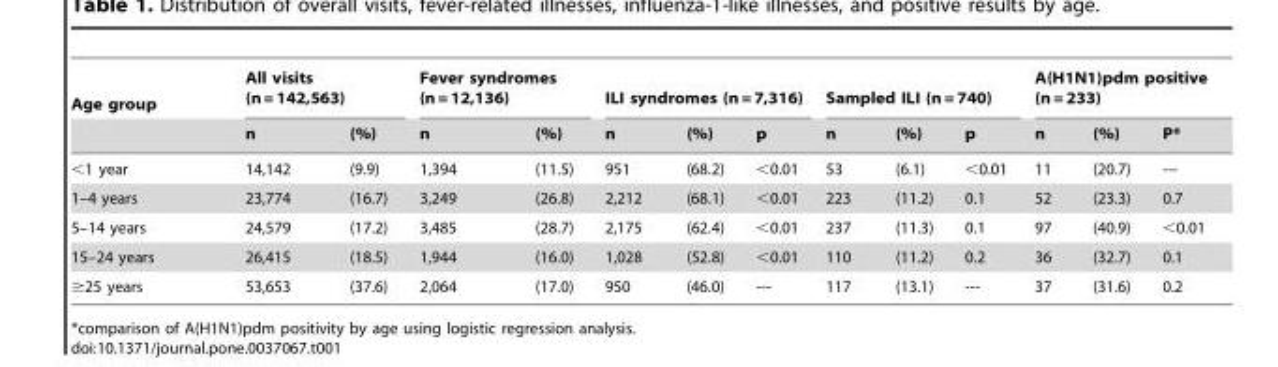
<table><thead><tr><td rowspan="2">Age group</td><td colspan="2">All visits (n = 142,563)</td><td colspan="2">Fever syndromes (n = 12,136)</td><td colspan="3">ILI syndromes (n = 7,316)</td><td colspan="3">Sampled ILI (n = 740)</td><td colspan="3">A(H1N1)pdm positive (n = 233)</td></tr><tr><td>n</td><td>(%)</td><td>n</td><td>(%)</td><td>n</td><td>(%)</td><td>p</td><td>n</td><td>(%)</td><td>p</td><td>n</td><td>(%)</td><td>P*</td></tr></thead><tbody><tr><td>&lt;1 year</td><td>14,142</td><td>(9.9)</td><td>1,394</td><td>(11.5)</td><td>951</td><td>(68.2)</td><td>&lt;0.01</td><td>53</td><td>(6.1)</td><td>&lt;0.01</td><td>11</td><td>(20.7)</td><td>---</td></tr><tr><td>1–4 years</td><td>23,774</td><td>(16.7)</td><td>3,249</td><td>(26.8)</td><td>2,212</td><td>(68.1)</td><td>&lt;0.01</td><td>223</td><td>(11.2)</td><td>0.1</td><td>52</td><td>(23.3)</td><td>0.7</td></tr><tr><td>5–14 years</td><td>24,579</td><td>(17.2)</td><td>3,485</td><td>(28.7)</td><td>2,175</td><td>(62.4)</td><td>&lt;0.01</td><td>237</td><td>(11.3)</td><td>0.1</td><td>97</td><td>(40.9)</td><td>&lt;0.01</td></tr><tr><td>15–24 years</td><td>26,415</td><td>(18.5)</td><td>1,944</td><td>(16.0)</td><td>1,028</td><td>(52.8)</td><td>&lt;0.01</td><td>110</td><td>(11.2)</td><td>0.2</td><td>36</td><td>(32.7)</td><td>0.1</td></tr><tr><td>≥25 years</td><td>53,653</td><td>(37.6)</td><td>2,064</td><td>(17.0)</td><td>950</td><td>(46.0)</td><td>---</td><td>117</td><td>(13.1)</td><td>---</td><td>37</td><td>(31.6)</td><td>0.2</td></tr></tbody></table>